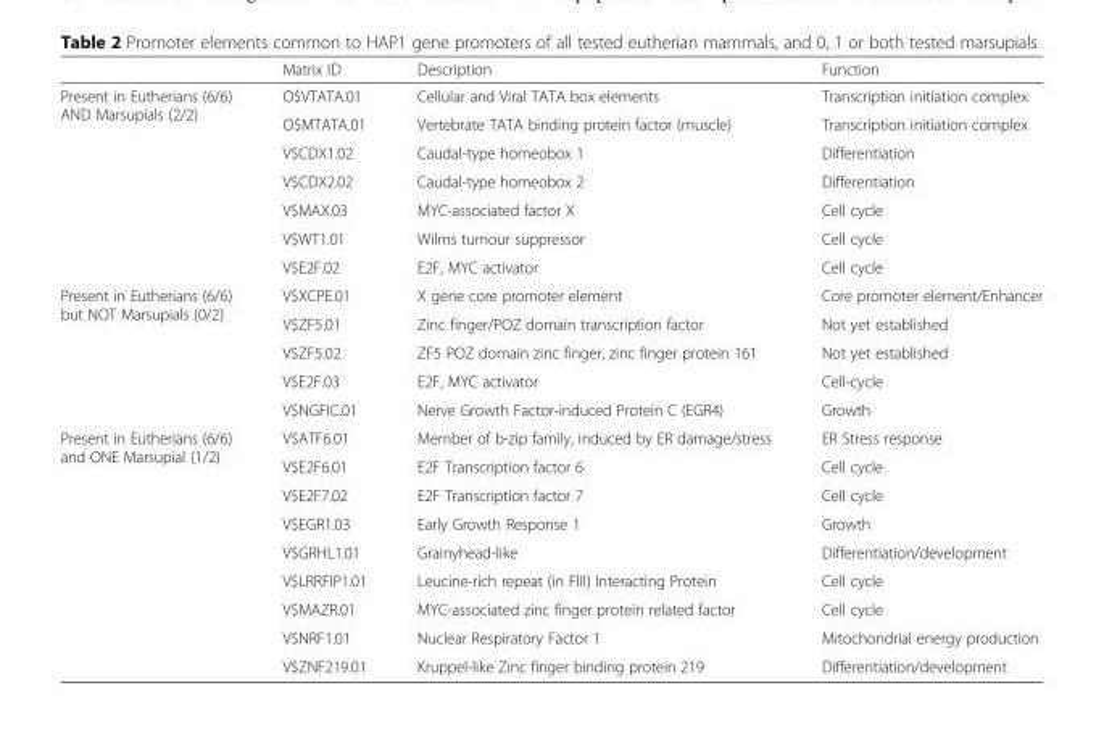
<table><thead><tr><td></td><td>Matrix ID</td><td>Description</td><td>Function</td></tr></thead><tbody><tr><td rowspan="7">Present in Eutherians (6/6) AND Marsupials (2/2)</td><td>O$VTATA.01</td><td>Cellular and Viral TATA box elements</td><td>Transcription initiation complex</td></tr><tr><td>O$MTATA.01</td><td>Vertebrate TATA binding protein factor (muscle)</td><td>Transcription initiation complex</td></tr><tr><td>V$CDX1.02</td><td>Caudal-type homeobox 1</td><td>Differentiation</td></tr><tr><td>V$CDX2.02</td><td>Caudal-type homeobox 2</td><td>Differentiation</td></tr><tr><td>V$MAX.03</td><td>MYC-associated factor X</td><td>Cell cycle</td></tr><tr><td>V$WT1.01</td><td>Wilms tumour suppressor</td><td>Cell cycle</td></tr><tr><td>V$E2F.02</td><td>E2F, MYC activator</td><td>Cell cycle</td></tr><tr><td rowspan="5">Present in Eutherians (6/6) but NOT Marsupials (0/2)</td><td>V$XCPE.01</td><td>X gene core promoter element</td><td>Core promoter element/Enhancer</td></tr><tr><td>V$ZF5.01</td><td>Zinc finger/POZ domain transcription factor</td><td>Not yet established</td></tr><tr><td>V$ZF5.02</td><td>ZF5 POZ domain zinc finger, zinc finger protein 161</td><td>Not yet established</td></tr><tr><td>V$E2F.03</td><td>E2F, MYC activator</td><td>Cell-cycle</td></tr><tr><td>V$NGFIC.01</td><td>Nerve Growth Factor-induced Protein C (EGR4)</td><td>Growth</td></tr><tr><td rowspan="9">Present in Eutherians (6/6) and ONE Marsupial (1/2)</td><td>V$ATF6.01</td><td>Member of b-zip family, induced by ER damage/stress</td><td>ER Stress response</td></tr><tr><td>V$E2F6.01</td><td>E2F Transcription factor 6</td><td>Cell cycle</td></tr><tr><td>V$E2F7.02</td><td>E2F Transcription factor 7</td><td>Cell cycle</td></tr><tr><td>V$EGR1.03</td><td>Early Growth Response 1</td><td>Growth</td></tr><tr><td>V$GRHL1.01</td><td>Grainyhead-like</td><td>Differentiation/development</td></tr><tr><td>V$LRRFIP1.01</td><td>Leucine-rich repeat (in FlII) Interacting Protein</td><td>Cell cycle</td></tr><tr><td>V$MAZR.01</td><td>MYC-associated zinc finger protein related factor</td><td>Cell cycle</td></tr><tr><td>V$NRF1.01</td><td>Nuclear Respiratory Factor 1</td><td>Mitochondrial energy production</td></tr><tr><td>V$ZNF219.01</td><td>Kruppel-like Zinc finger binding protein 219</td><td>Differentiation/development</td></tr></tbody></table>